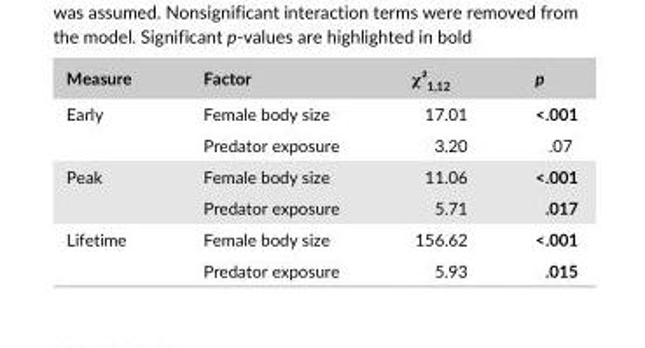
<table><thead><tr><td>Measure</td><td>Factor</td><td>χ²<sub>1,12</sub></td><td>p</td></tr></thead><tbody><tr><td rowspan="2">Early</td><td>Female body size</td><td>17.01</td><td>&lt;.001</td></tr><tr><td>Predator exposure</td><td>3.20</td><td>.07</td></tr><tr><td rowspan="2">Peak</td><td>Female body size</td><td>11.06</td><td>&lt;.001</td></tr><tr><td>Predator exposure</td><td>5.71</td><td>.017</td></tr><tr><td rowspan="2">Lifetime</td><td>Female body size</td><td>156.62</td><td>&lt;.001</td></tr><tr><td>Predator exposure</td><td>5.93</td><td>.015</td></tr></tbody></table>